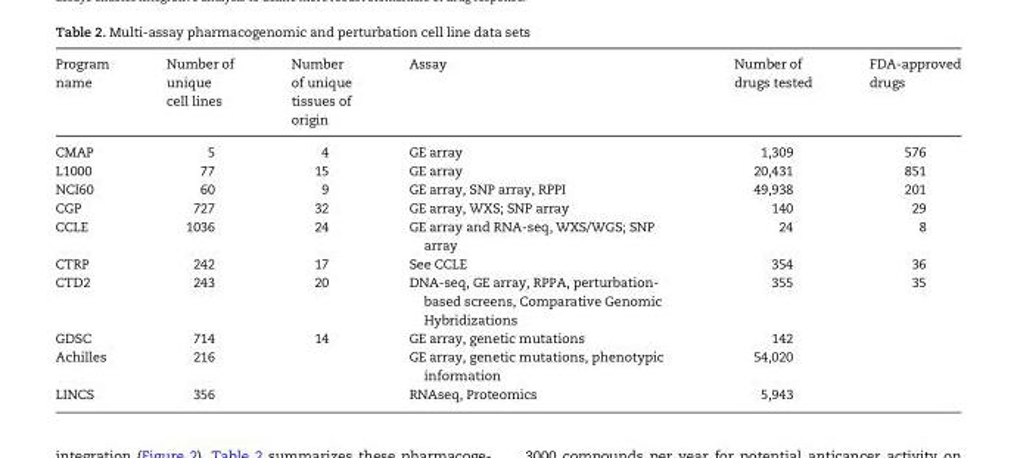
<table><thead><tr><td>Program name</td><td>Number of unique cell lines</td><td>Number of unique tissues of origin</td><td>Assay</td><td>Number of drugs tested</td><td>FDA-approved drugs</td></tr></thead><tbody><tr><td>CMAP</td><td>5</td><td>4</td><td>GE array</td><td>1,309</td><td>576</td></tr><tr><td>L1000</td><td>77</td><td>15</td><td>GE array</td><td>20,431</td><td>851</td></tr><tr><td>NCI60</td><td>60</td><td>9</td><td>GE array, SNP array, RPPI</td><td>49,938</td><td>201</td></tr><tr><td>CGP</td><td>727</td><td>32</td><td>GE array, WXS; SNP array</td><td>140</td><td>29</td></tr><tr><td>CCLE</td><td>1036</td><td>24</td><td>GE array and RNA-seq, WXS/WGS; SNP array</td><td>24</td><td>8</td></tr><tr><td>CTRP</td><td>242</td><td>17</td><td>See CCLE</td><td>354</td><td>36</td></tr><tr><td>CTD2</td><td>243</td><td>20</td><td>DNA-seq, GE array, RPPA, perturbation- based screens, Comparative Genomic Hybridizations</td><td>355</td><td>35</td></tr><tr><td>GDSC</td><td>714</td><td>14</td><td>GE array, genetic mutations</td><td>142</td><td></td></tr><tr><td>Achilles</td><td>216</td><td></td><td>GE array, genetic mutations, phenotypic information</td><td>54,020</td><td></td></tr><tr><td>LINCS</td><td>356</td><td></td><td>RNAseq, Proteomics</td><td>5,943</td><td></td></tr></tbody></table>